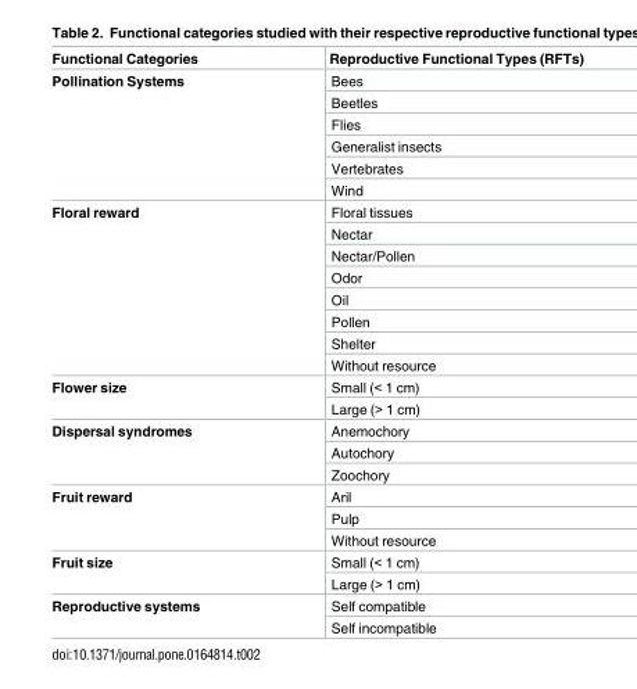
<table><thead><tr><td>Functional Categories</td><td>Reproductive Functional Types (RFTs)</td></tr></thead><tbody><tr><td rowspan="6">Pollination Systems</td><td>Bees</td></tr><tr><td>Beetles</td></tr><tr><td>Flies</td></tr><tr><td>Generalist insects</td></tr><tr><td>Vertebrates</td></tr><tr><td>Wind</td></tr><tr><td rowspan="8">Floral reward</td><td>Floral tissues</td></tr><tr><td>Nectar</td></tr><tr><td>Nectar/Pollen</td></tr><tr><td>Odor</td></tr><tr><td>Oil</td></tr><tr><td>Pollen</td></tr><tr><td>Shelter</td></tr><tr><td>Without resource</td></tr><tr><td rowspan="2">Flower size</td><td>Small (&lt; 1 cm)</td></tr><tr><td>Large (&gt; 1 cm)</td></tr><tr><td rowspan="3">Dispersal syndromes</td><td>Anemochory</td></tr><tr><td>Autochory</td></tr><tr><td>Zoochory</td></tr><tr><td rowspan="3">Fruit reward</td><td>Aril</td></tr><tr><td>Pulp</td></tr><tr><td>Without resource</td></tr><tr><td rowspan="2">Fruit size</td><td>Small (&lt; 1 cm)</td></tr><tr><td>Large (&gt; 1 cm)</td></tr><tr><td rowspan="2">Reproductive systems</td><td>Self compatible</td></tr><tr><td>Self incompatible</td></tr></tbody></table>